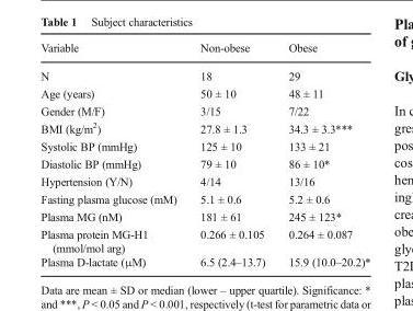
<table><thead><tr><td>Variable</td><td>Non-obese</td><td>Obese</td></tr></thead><tbody><tr><td>N</td><td>18</td><td>29</td></tr><tr><td>Age (years)</td><td>50 ± 10</td><td>48 ± 11</td></tr><tr><td>Gender (M/F)</td><td>3/15</td><td>7/22</td></tr><tr><td>BMI (kg/m<sup>2</sup>)</td><td>27.8 ± 1.3</td><td>34.3 ± 3.3***</td></tr><tr><td>Systolic BP (mmHg)</td><td>125 ± 10</td><td>133 ± 21</td></tr><tr><td>Diastolic BP (mmHg)</td><td>79 ± 10</td><td>86 ± 10*</td></tr><tr><td>Hypertension (Y/N)</td><td>4/14</td><td>13/16</td></tr><tr><td>Fasting plasma glucose (mM)</td><td>5.1 ± 0.6</td><td>5.2 ± 0.6</td></tr><tr><td>Plasma MG (nM)</td><td>181 ± 61</td><td>245 ± 123*</td></tr><tr><td>Plasma protein MG-H1 (mmol/mol arg)</td><td>0.266 ± 0.105</td><td>0.264 ± 0.087</td></tr><tr><td>Plasma D-lactate (μM)</td><td>6.5 (2.4–13.7)</td><td>15.9 (10.0–20.2)*</td></tr></tbody></table>